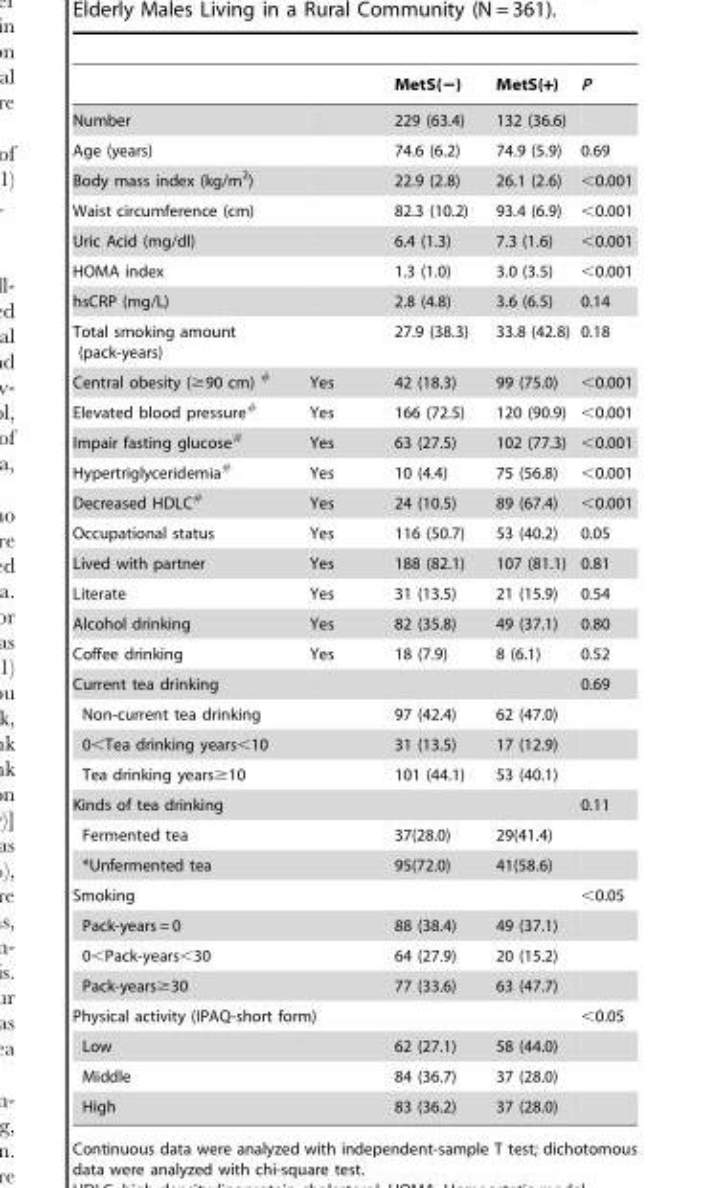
<table><thead><tr><td></td><td></td><td>MetS(−)</td><td>MetS(+)</td><td>P</td></tr></thead><tbody><tr><td>Number</td><td></td><td>229 (63.4)</td><td>132 (36.6)</td><td></td></tr><tr><td>Age (years)</td><td></td><td>74.6 (6.2)</td><td>74.9 (5.9)</td><td>0.69</td></tr><tr><td>Body mass index (kg/m<sup>2</sup>)</td><td></td><td>22.9 (2.8)</td><td>26.1 (2.6)</td><td>&lt;0.001</td></tr><tr><td>Waist circumference (cm)</td><td></td><td>82.3 (10.2)</td><td>93.4 (6.9)</td><td>&lt;0.001</td></tr><tr><td>Uric Acid (mg/dl)</td><td></td><td>6.4 (1.3)</td><td>7.3 (1.6)</td><td>&lt;0.001</td></tr><tr><td>HOMA index</td><td></td><td>1.3 (1.0)</td><td>3.0 (3.5)</td><td>&lt;0.001</td></tr><tr><td>hsCRP (mg/L)</td><td></td><td>2.8 (4.8)</td><td>3.6 (6.5)</td><td>0.14</td></tr><tr><td colspan="2">Total smoking amount (pack-years)</td><td>27.9 (38.3)</td><td>33.8 (42.8)</td><td>0.18</td></tr><tr><td>Central obesity (≥90 cm) #</td><td>Yes</td><td>42 (18.3)</td><td>99 (75.0)</td><td>&lt;0.001</td></tr><tr><td>Elevated blood pressure#</td><td>Yes</td><td>166 (72.5)</td><td>120 (90.9)</td><td>&lt;0.001</td></tr><tr><td>Impair fasting glucose#</td><td>Yes</td><td>63 (27.5)</td><td>102 (77.3)</td><td>&lt;0.001</td></tr><tr><td>Hypertriglyceridemia#</td><td>Yes</td><td>10 (4.4)</td><td>75 (56.8)</td><td>&lt;0.001</td></tr><tr><td>Decreased HDLC#</td><td>Yes</td><td>24 (10.5)</td><td>89 (67.4)</td><td>&lt;0.001</td></tr><tr><td>Occupational status</td><td>Yes</td><td>116 (50.7)</td><td>53 (40.2)</td><td>0.05</td></tr><tr><td>Lived with partner</td><td>Yes</td><td>188 (82.1)</td><td>107 (81.1)</td><td>0.81</td></tr><tr><td>Literate</td><td>Yes</td><td>31 (13.5)</td><td>21 (15.9)</td><td>0.54</td></tr><tr><td>Alcohol drinking</td><td>Yes</td><td>82 (35.8)</td><td>49 (37.1)</td><td>0.80</td></tr><tr><td>Coffee drinking</td><td>Yes</td><td>18 (7.9)</td><td>8 (6.1)</td><td>0.52</td></tr><tr><td>Current tea drinking</td><td></td><td></td><td></td><td>0.69</td></tr><tr><td colspan="2">Non-current tea drinking</td><td>97 (42.4)</td><td>62 (47.0)</td><td></td></tr><tr><td colspan="2">0&lt;Tea drinking years&lt;10</td><td>31 (13.5)</td><td>17 (12.9)</td><td></td></tr><tr><td colspan="2">Tea drinking years≥10</td><td>101 (44.1)</td><td>53 (40.1)</td><td></td></tr><tr><td colspan="2">Kinds of tea drinking</td><td></td><td></td><td>0.11</td></tr><tr><td colspan="2">Fermented tea</td><td>37(28.0)</td><td>29(41.4)</td><td></td></tr><tr><td colspan="2">*Unfermented tea</td><td>95(72.0)</td><td>41(58.6)</td><td></td></tr><tr><td colspan="2">Smoking</td><td></td><td></td><td>&lt;0.05</td></tr><tr><td colspan="2">Pack-years = 0</td><td>88 (38.4)</td><td>49 (37.1)</td><td></td></tr><tr><td colspan="2">0&lt;Pack-years&lt;30</td><td>64 (27.9)</td><td>20 (15.2)</td><td></td></tr><tr><td colspan="2">Pack-years≥30</td><td>77 (33.6)</td><td>63 (47.7)</td><td></td></tr><tr><td colspan="2">Physical activity (IPAQ-short form)</td><td></td><td></td><td>&lt;0.05</td></tr><tr><td colspan="2">Low</td><td>62 (27.1)</td><td>58 (44.0)</td><td></td></tr><tr><td colspan="2">Middle</td><td>84 (36.7)</td><td>37 (28.0)</td><td></td></tr><tr><td colspan="2">High</td><td>83 (36.2)</td><td>37 (28.0)</td><td></td></tr></tbody></table>